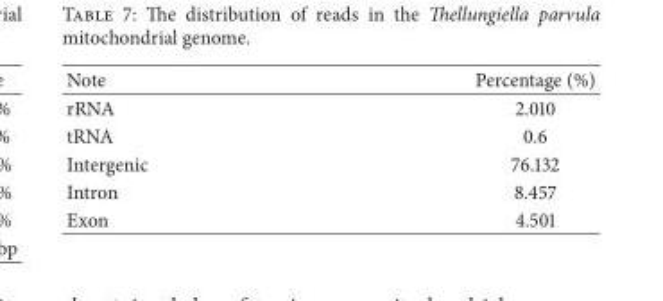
<table><thead><tr><td>Note</td><td>Percentage (%)</td></tr></thead><tbody><tr><td>rRNA</td><td>2.010</td></tr><tr><td>tRNA</td><td>0.6</td></tr><tr><td>Intergenic</td><td>76.132</td></tr><tr><td>Intron</td><td>8.457</td></tr><tr><td>Exon</td><td>4.501</td></tr></tbody></table>